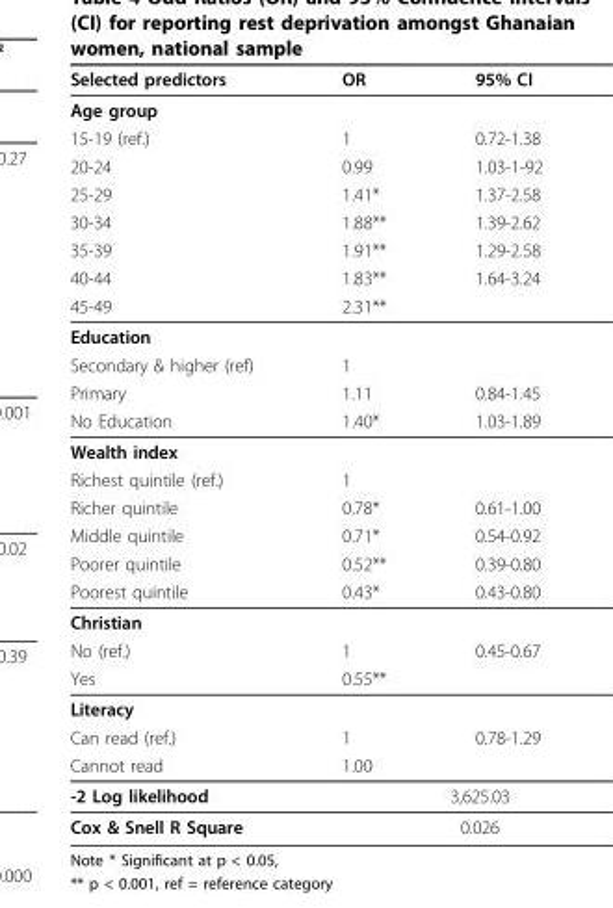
<table><thead><tr><td>Selected predictors</td><td>OR</td><td>95% CI</td></tr></thead><tbody><tr><td colspan="3">Age group</td></tr><tr><td>15-19 (ref.)</td><td>1</td><td>0.72-1.38</td></tr><tr><td>20-24</td><td>0.99</td><td>1.03-1-92</td></tr><tr><td>25-29</td><td>1.41*</td><td>1.37-2.58</td></tr><tr><td>30-34</td><td>1.88**</td><td>1.39-2.62</td></tr><tr><td>35-39</td><td>1.91**</td><td>1.29-2.58</td></tr><tr><td>40-44</td><td>1.83**</td><td>1.64-3.24</td></tr><tr><td>45-49</td><td>2.31**</td><td></td></tr><tr><td colspan="3">Education</td></tr><tr><td>Secondary &amp; higher (ref)</td><td>1</td><td></td></tr><tr><td>Primary</td><td>1.11</td><td>0.84-1.45</td></tr><tr><td>No Education</td><td>1.40*</td><td>1.03-1.89</td></tr><tr><td colspan="3">Wealth index</td></tr><tr><td>Richest quintile (ref.)</td><td>1</td><td></td></tr><tr><td>Richer quintile</td><td>0.78*</td><td>0.61-1.00</td></tr><tr><td>Middle quintile</td><td>0.71*</td><td>0.54-0.92</td></tr><tr><td>Poorer quintile</td><td>0.52**</td><td>0.39-0.80</td></tr><tr><td>Poorest quintile</td><td>0.43*</td><td>0.43-0.80</td></tr><tr><td colspan="3">Christian</td></tr><tr><td>No (ref.)</td><td>1</td><td>0.45-0.67</td></tr><tr><td>Yes</td><td>0.55**</td><td></td></tr><tr><td colspan="3">Literacy</td></tr><tr><td>Can read (ref.)</td><td>1</td><td>0.78-1.29</td></tr><tr><td>Cannot read</td><td>1.00</td><td></td></tr><tr><td>-2 Log likelihood</td><td colspan="2">3,625.03</td></tr><tr><td>Cox &amp; Snell R Square</td><td colspan="2">0.026</td></tr></tbody></table>